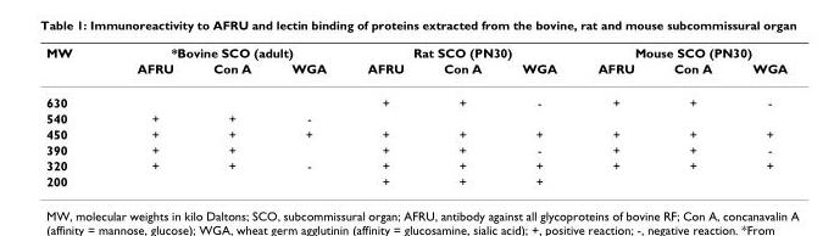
<table><thead><tr><td rowspan="2">MW</td><td colspan="3">*Bovine SCO (adult)</td><td colspan="3">Rat SCO (PN30)</td><td colspan="3">Mouse SCO (PN30)</td></tr><tr><td>AFRU</td><td>Con A</td><td>WGA</td><td>AFRU</td><td>Con A</td><td>WGA</td><td>AFRU</td><td>Con A</td><td>WGA</td></tr></thead><tbody><tr><td>630</td><td></td><td></td><td></td><td>+</td><td>+</td><td>-</td><td>+</td><td>+</td><td>-</td></tr><tr><td>540</td><td>+</td><td>+</td><td>-</td><td></td><td></td><td></td><td></td><td></td><td></td></tr><tr><td>450</td><td>+</td><td>+</td><td>+</td><td>+</td><td>+</td><td>+</td><td>+</td><td>+</td><td>+</td></tr><tr><td>390</td><td>+</td><td>+</td><td></td><td>+</td><td>+</td><td>-</td><td>+</td><td>+</td><td>-</td></tr><tr><td>320</td><td>+</td><td>+</td><td>-</td><td>+</td><td>+</td><td>+</td><td>+</td><td>+</td><td>+</td></tr><tr><td>200</td><td></td><td></td><td></td><td>+</td><td>+</td><td>+</td><td></td><td></td><td></td></tr></tbody></table>